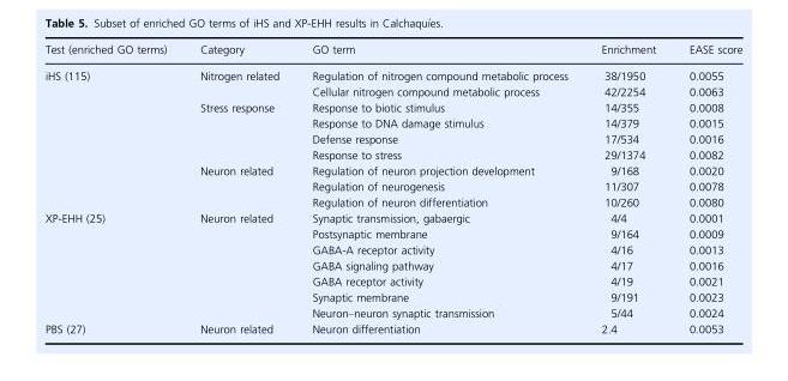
<table><thead><tr><td>Test (enriched GO terms)</td><td>Category</td><td>GO term</td><td>Enrichment</td><td>EASE score</td></tr></thead><tbody><tr><td rowspan="9">iHS (115)</td><td rowspan="2">Nitrogen related</td><td>Regulation of nitrogen compound metabolic process</td><td>38/1950</td><td>0.0055</td></tr><tr><td>Cellular nitrogen compound metabolic process</td><td>42/2254</td><td>0.0063</td></tr><tr><td rowspan="4">Stress response</td><td>Response to biotic stimulus</td><td>14/355</td><td>0.0008</td></tr><tr><td>Response to DNA damage stimulus</td><td>14/379</td><td>0.0015</td></tr><tr><td>Defense response</td><td>17/534</td><td>0.0016</td></tr><tr><td>Response to stress</td><td>29/1374</td><td>0.0082</td></tr><tr><td rowspan="3">Neuron related</td><td>Regulation of neuron projection development</td><td>9/168</td><td>0.0020</td></tr><tr><td>Regulation of neurogenesis</td><td>11/307</td><td>0.0078</td></tr><tr><td>Regulation of neuron differentiation</td><td>10/260</td><td>0.0080</td></tr><tr><td rowspan="7">XP-EHH (25)</td><td rowspan="7">Neuron related</td><td>Synaptic transmission, gabaergic</td><td>4/4</td><td>0.0001</td></tr><tr><td>Postsynaptic membrane</td><td>9/164</td><td>0.0009</td></tr><tr><td>GABA-A receptor activity</td><td>4/16</td><td>0.0013</td></tr><tr><td>GABA signaling pathway</td><td>4/17</td><td>0.0016</td></tr><tr><td>GABA receptor activity</td><td>4/19</td><td>0.0021</td></tr><tr><td>Synaptic membrane</td><td>9/191</td><td>0.0023</td></tr><tr><td>Neuron–neuron synaptic transmission</td><td>5/44</td><td>0.0024</td></tr><tr><td>PBS (27)</td><td>Neuron related</td><td>Neuron differentiation</td><td>2.4</td><td>0.0053</td></tr></tbody></table>